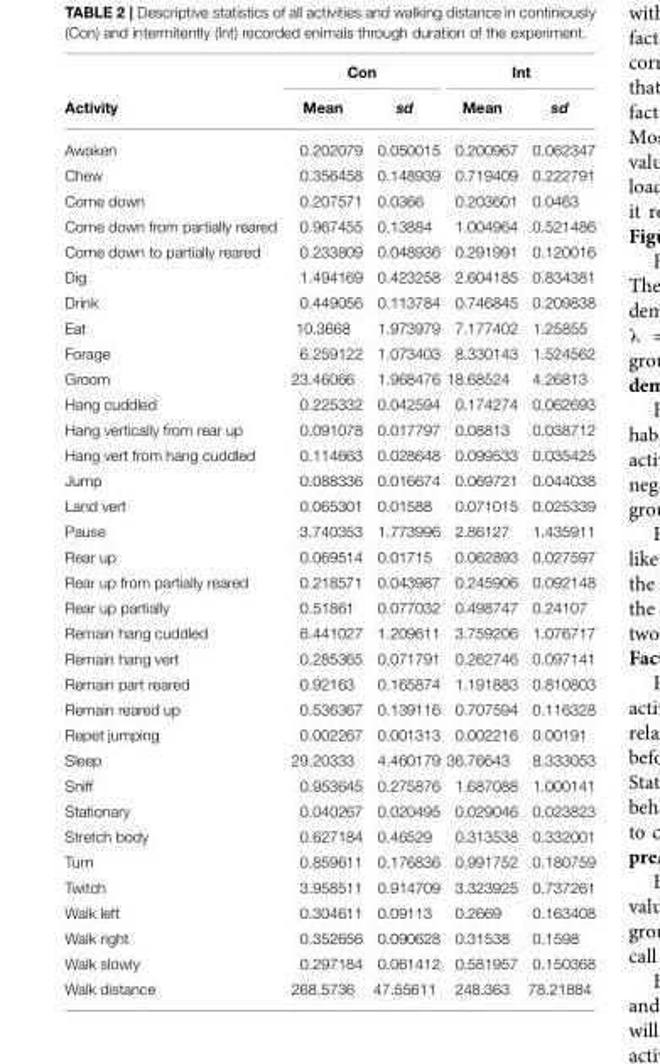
<table><thead><tr><td rowspan="2">Activity</td><td colspan="2">Con</td><td colspan="2">Int</td></tr><tr><td>Mean</td><td>sd</td><td>Mean</td><td>sd</td></tr></thead><tbody><tr><td>Awaken</td><td>0.202079</td><td>0.050015</td><td>0.200967</td><td>0.062347</td></tr><tr><td>Chew</td><td>0.356458</td><td>0.148939</td><td>0.719409</td><td>0.222791</td></tr><tr><td>Come down</td><td>0.207571</td><td>0.0366</td><td>0.203601</td><td>0.0463</td></tr><tr><td>Come down from partially reared</td><td>0.967455</td><td>0.13884</td><td>1.004964</td><td>0.521486</td></tr><tr><td>Come down to partially reared</td><td>0.233809</td><td>0.048936</td><td>0.291991</td><td>0.120016</td></tr><tr><td>Dig</td><td>1.494169</td><td>0.423258</td><td>2.604185</td><td>0.834381</td></tr><tr><td>Drink</td><td>0.449056</td><td>0.113784</td><td>0.746845</td><td>0.209838</td></tr><tr><td>Eat</td><td>10.3668</td><td>1.973979</td><td>7.177402</td><td>1.25855</td></tr><tr><td>Forage</td><td>6.259122</td><td>1.073403</td><td>8.330143</td><td>1.524562</td></tr><tr><td>Groom</td><td>23.46066</td><td>1.968476</td><td>18.68524</td><td>4.26813</td></tr><tr><td>Hang cuddled</td><td>0.225332</td><td>0.042594</td><td>0.174274</td><td>0.062693</td></tr><tr><td>Hang vertically from rear up</td><td>0.091078</td><td>0.017797</td><td>0.08813</td><td>0.038712</td></tr><tr><td>Hang vert from hang cuddled</td><td>0.114663</td><td>0.028648</td><td>0.099533</td><td>0.035425</td></tr><tr><td>Jump</td><td>0.088336</td><td>0.016674</td><td>0.069721</td><td>0.044038</td></tr><tr><td>Land vert</td><td>0.065301</td><td>0.01588</td><td>0.071015</td><td>0.025339</td></tr><tr><td>Pause</td><td>3.740353</td><td>1.773996</td><td>2.86127</td><td>1.435911</td></tr><tr><td>Rear up</td><td>0.069514</td><td>0.01715</td><td>0.062893</td><td>0.027597</td></tr><tr><td>Rear up from partially reared</td><td>0.218571</td><td>0.043987</td><td>0.245906</td><td>0.092148</td></tr><tr><td>Rear up partially</td><td>0.51861</td><td>0.077032</td><td>0.498747</td><td>0.24107</td></tr><tr><td>Remain hang cuddled</td><td>6.441027</td><td>1.209611</td><td>3.759206</td><td>1.076717</td></tr><tr><td>Remain hang vert</td><td>0.285365</td><td>0.071791</td><td>0.262746</td><td>0.097141</td></tr><tr><td>Remain part reared</td><td>0.92163</td><td>0.165874</td><td>1.191883</td><td>0.810803</td></tr><tr><td>Remain reared up</td><td>0.536367</td><td>0.139116</td><td>0.707594</td><td>0.116328</td></tr><tr><td>Repet jumping</td><td>0.002267</td><td>0.001313</td><td>0.002216</td><td>0.00191</td></tr><tr><td>Sleep</td><td>29.20333</td><td>4.460179</td><td>36.76643</td><td>8.333053</td></tr><tr><td>Sniff</td><td>0.953645</td><td>0.275876</td><td>1.687088</td><td>1.000141</td></tr><tr><td>Stationary</td><td>0.040267</td><td>0.020495</td><td>0.029046</td><td>0.023823</td></tr><tr><td>Stretch body</td><td>0.627184</td><td>0.46529</td><td>0.313538</td><td>0.332001</td></tr><tr><td>Turn</td><td>0.859611</td><td>0.176836</td><td>0.991752</td><td>0.180759</td></tr><tr><td>Twitch</td><td>3.958511</td><td>0.914709</td><td>3.323925</td><td>0.737261</td></tr><tr><td>Walk left</td><td>0.304611</td><td>0.09113</td><td>0.2669</td><td>0.163408</td></tr><tr><td>Walk right</td><td>0.352656</td><td>0.090628</td><td>0.31538</td><td>0.1598</td></tr><tr><td>Walk slowly</td><td>0.297184</td><td>0.061412</td><td>0.581957</td><td>0.150368</td></tr><tr><td>Walk distance</td><td>268.5736</td><td>47.55611</td><td>248.363</td><td>78.21884</td></tr></tbody></table>